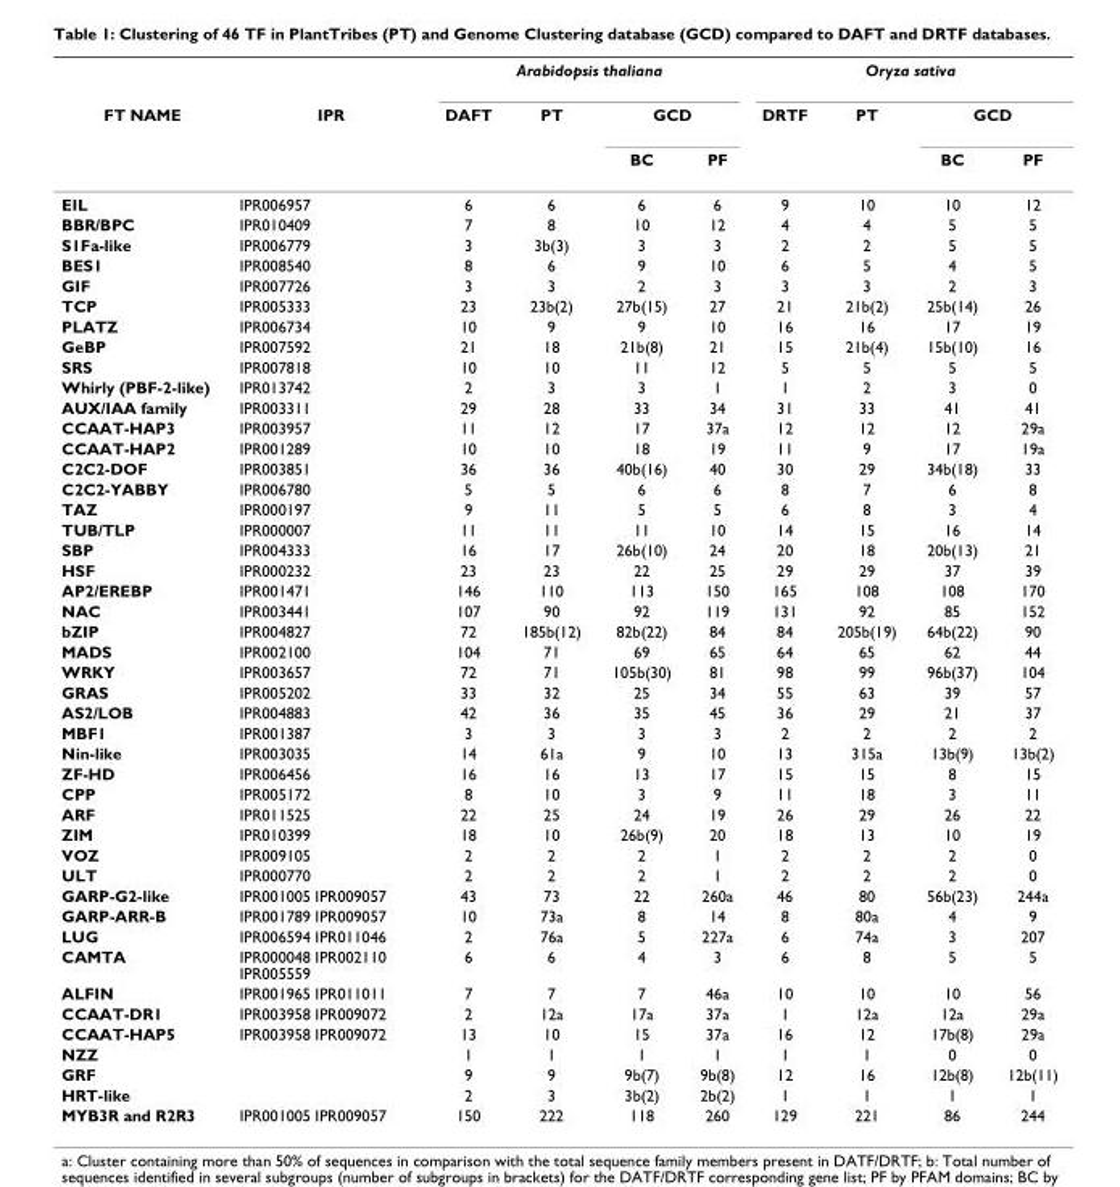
<table><thead><tr><td rowspan="3">FT NAME</td><td rowspan="3">IPR</td><td colspan="4">Arabidopsis thaliana</td><td colspan="4">Oryza sativa</td></tr><tr><td rowspan="2">DAFT</td><td rowspan="2">PT</td><td colspan="2">GCD</td><td rowspan="2">DRTF</td><td rowspan="2">PT</td><td colspan="2">GCD</td></tr><tr><td>BC</td><td>PF</td><td>BC</td><td>PF</td></tr></thead><tbody><tr><td>EIL</td><td>IPR006957</td><td>6</td><td>6</td><td>6</td><td>6</td><td>9</td><td>10</td><td>10</td><td>12</td></tr><tr><td>BBR/BPC</td><td>IPR010409</td><td>7</td><td>8</td><td>10</td><td>12</td><td>4</td><td>4</td><td>5</td><td>5</td></tr><tr><td>S1Fa-like</td><td>IPR006779</td><td>3</td><td>3b(3)</td><td>3</td><td>3</td><td>2</td><td>2</td><td>5</td><td>5</td></tr><tr><td>BES1</td><td>IPR008540</td><td>8</td><td>6</td><td>9</td><td>10</td><td>6</td><td>5</td><td>4</td><td>5</td></tr><tr><td>GIF</td><td>IPR007726</td><td>3</td><td>3</td><td>2</td><td>3</td><td>3</td><td>3</td><td>2</td><td>3</td></tr><tr><td>TCP</td><td>IPR005333</td><td>23</td><td>23b(2)</td><td>27b(15)</td><td>27</td><td>21</td><td>21b(2)</td><td>25b(14)</td><td>26</td></tr><tr><td>PLATZ</td><td>IPR006734</td><td>10</td><td>9</td><td>9</td><td>10</td><td>16</td><td>16</td><td>17</td><td>19</td></tr><tr><td>GeBP</td><td>IPR007592</td><td>21</td><td>18</td><td>21b(8)</td><td>21</td><td>15</td><td>21b(4)</td><td>15b(10)</td><td>16</td></tr><tr><td>SRS</td><td>IPR007818</td><td>10</td><td>10</td><td>11</td><td>12</td><td>5</td><td>5</td><td>5</td><td>5</td></tr><tr><td>Whirly (PBF-2-like)</td><td>IPR013742</td><td>2</td><td>3</td><td>3</td><td>1</td><td>1</td><td>2</td><td>3</td><td>0</td></tr><tr><td>AUX/IAA family</td><td>IPR003311</td><td>29</td><td>28</td><td>33</td><td>34</td><td>31</td><td>33</td><td>41</td><td>41</td></tr><tr><td>CCAAT-HAP3</td><td>IPR003957</td><td>11</td><td>12</td><td>17</td><td>37a</td><td>12</td><td>12</td><td>12</td><td>29a</td></tr><tr><td>CCAAT-HAP2</td><td>IPR001289</td><td>10</td><td>10</td><td>18</td><td>19</td><td>11</td><td>9</td><td>17</td><td>19a</td></tr><tr><td>C2C2-DOF</td><td>IPR003851</td><td>36</td><td>36</td><td>40b(16)</td><td>40</td><td>30</td><td>29</td><td>34b(18)</td><td>33</td></tr><tr><td>C2C2-YABBY</td><td>IPR006780</td><td>5</td><td>5</td><td>6</td><td>6</td><td>8</td><td>7</td><td>6</td><td>8</td></tr><tr><td>TAZ</td><td>IPR000197</td><td>9</td><td>11</td><td>5</td><td>5</td><td>6</td><td>8</td><td>3</td><td>4</td></tr><tr><td>TUB/TLP</td><td>IPR000007</td><td>11</td><td>11</td><td>11</td><td>10</td><td>14</td><td>15</td><td>16</td><td>14</td></tr><tr><td>SBP</td><td>IPR004333</td><td>16</td><td>17</td><td>26b(10)</td><td>24</td><td>20</td><td>18</td><td>20b(13)</td><td>21</td></tr><tr><td>HSF</td><td>IPR000232</td><td>23</td><td>23</td><td>22</td><td>25</td><td>29</td><td>29</td><td>37</td><td>39</td></tr><tr><td>AP2/EREBP</td><td>IPR001471</td><td>146</td><td>110</td><td>113</td><td>150</td><td>165</td><td>108</td><td>108</td><td>170</td></tr><tr><td>NAC</td><td>IPR003441</td><td>107</td><td>90</td><td>92</td><td>119</td><td>131</td><td>92</td><td>85</td><td>152</td></tr><tr><td>bZIP</td><td>IPR004827</td><td>72</td><td>185b(12)</td><td>82b(22)</td><td>84</td><td>84</td><td>205b(19)</td><td>64b(22)</td><td>90</td></tr><tr><td>MADS</td><td>IPR002100</td><td>104</td><td>71</td><td>69</td><td>65</td><td>64</td><td>65</td><td>62</td><td>44</td></tr><tr><td>WRKY</td><td>IPR003657</td><td>72</td><td>71</td><td>105b(30)</td><td>81</td><td>98</td><td>99</td><td>96b(37)</td><td>104</td></tr><tr><td>GRAS</td><td>IPR005202</td><td>33</td><td>32</td><td>25</td><td>34</td><td>55</td><td>63</td><td>39</td><td>57</td></tr><tr><td>AS2/LOB</td><td>IPR004883</td><td>42</td><td>36</td><td>35</td><td>45</td><td>36</td><td>29</td><td>21</td><td>37</td></tr><tr><td>MBF1</td><td>IPR001387</td><td>3</td><td>3</td><td>3</td><td>3</td><td>2</td><td>2</td><td>2</td><td>2</td></tr><tr><td>Nin-like</td><td>IPR003035</td><td>14</td><td>61a</td><td>9</td><td>10</td><td>13</td><td>315a</td><td>13b(9)</td><td>13b(2)</td></tr><tr><td>ZF-HD</td><td>IPR006456</td><td>16</td><td>16</td><td>13</td><td>17</td><td>15</td><td>15</td><td>8</td><td>15</td></tr><tr><td>CPP</td><td>IPR005172</td><td>8</td><td>10</td><td>3</td><td>9</td><td>11</td><td>18</td><td>3</td><td>11</td></tr><tr><td>ARF</td><td>IPR011525</td><td>22</td><td>25</td><td>24</td><td>19</td><td>26</td><td>29</td><td>26</td><td>22</td></tr><tr><td>ZIM</td><td>IPR010399</td><td>18</td><td>10</td><td>26b(9)</td><td>20</td><td>18</td><td>13</td><td>10</td><td>19</td></tr><tr><td>VOZ</td><td>IPR009105</td><td>2</td><td>2</td><td>2</td><td>1</td><td>2</td><td>2</td><td>2</td><td>0</td></tr><tr><td>ULT</td><td>IPR000770</td><td>2</td><td>2</td><td>2</td><td>1</td><td>2</td><td>2</td><td>2</td><td>0</td></tr><tr><td>GARP-G2-like</td><td>IPR001005 IPR009057</td><td>43</td><td>73</td><td>22</td><td>260a</td><td>46</td><td>80</td><td>56b(23)</td><td>244a</td></tr><tr><td>GARP-ARR-B</td><td>IPR001789 IPR009057</td><td>10</td><td>73a</td><td>8</td><td>14</td><td>8</td><td>80a</td><td>4</td><td>9</td></tr><tr><td>LUG</td><td>IPR006594 IPR011046</td><td>2</td><td>76a</td><td>5</td><td>227a</td><td>6</td><td>74a</td><td>3</td><td>207</td></tr><tr><td>CAMTA</td><td>IPR000048 IPR002110 IPR005559</td><td>6</td><td>6</td><td>4</td><td>3</td><td>6</td><td>8</td><td>5</td><td>5</td></tr><tr><td>ALFIN</td><td>IPR001965 IPR011011</td><td>7</td><td>7</td><td>7</td><td>46a</td><td>10</td><td>10</td><td>10</td><td>56</td></tr><tr><td>CCAAT-DR1</td><td>IPR003958 IPR009072</td><td>2</td><td>12a</td><td>17a</td><td>37a</td><td>1</td><td>12a</td><td>12a</td><td>29a</td></tr><tr><td>CCAAT-HAP5</td><td>IPR003958 IPR009072</td><td>13</td><td>10</td><td>15</td><td>37a</td><td>16</td><td>12</td><td>17b(8)</td><td>29a</td></tr><tr><td>NZZ</td><td></td><td>1</td><td>1</td><td>1</td><td>1</td><td>1</td><td>1</td><td>0</td><td>0</td></tr><tr><td>GRF</td><td></td><td>9</td><td>9</td><td>9b(7)</td><td>9b(8)</td><td>12</td><td>16</td><td>12b(8)</td><td>12b(11)</td></tr><tr><td>HRT-like</td><td></td><td>2</td><td>3</td><td>3b(2)</td><td>2b(2)</td><td>1</td><td>1</td><td>1</td><td>1</td></tr><tr><td>MYB3R and R2R3</td><td>IPR001005 IPR009057</td><td>150</td><td>222</td><td>118</td><td>260</td><td>129</td><td>221</td><td>86</td><td>244</td></tr></tbody></table>